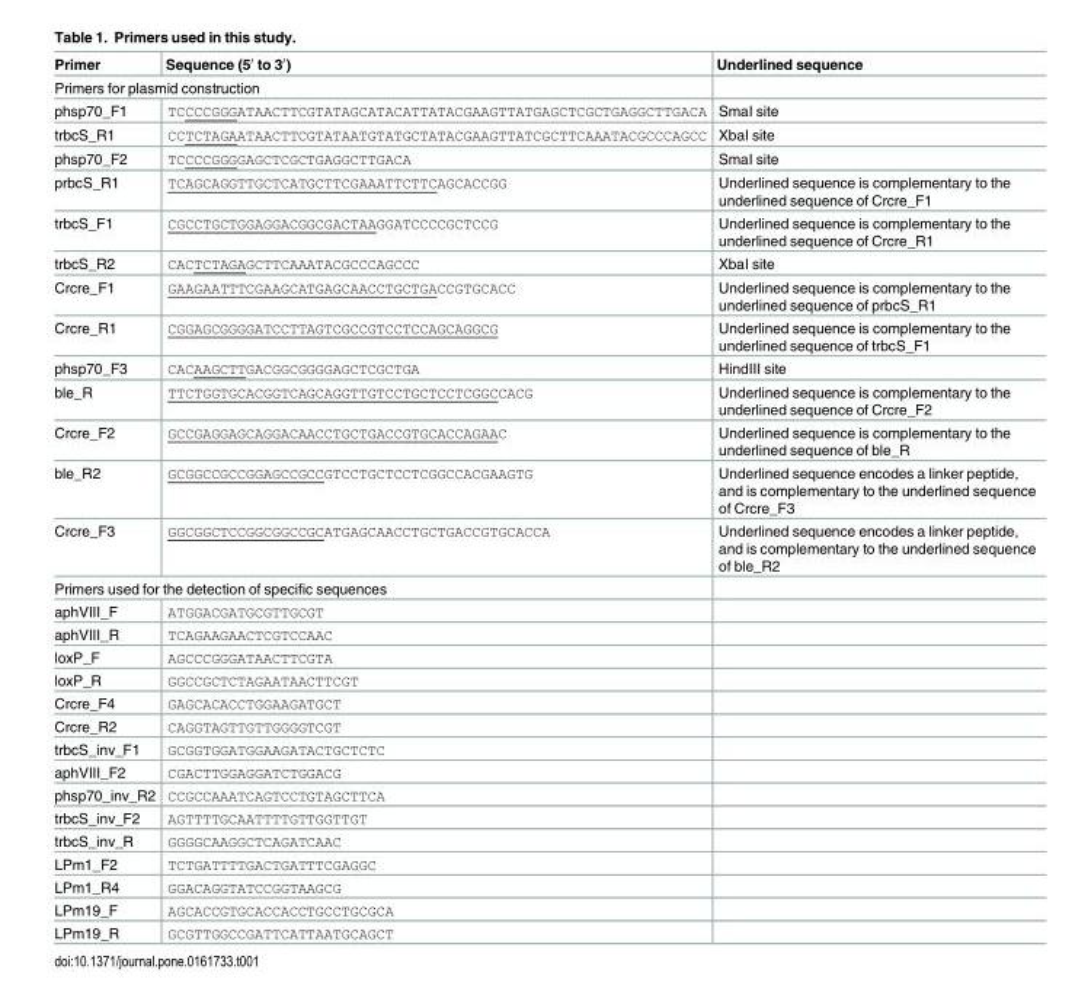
<table><thead><tr><td>Primer</td><td>Sequence (5′ to 3′)</td><td>Underlined sequence</td></tr></thead><tbody><tr><td colspan="3">Primers for plasmid construction</td></tr><tr><td>phsp70_F1</td><td>TCCCCGGGATAACTTCGTATAGCATACATTATACGAAGTTATGAGCTCGCTGAGGCTTGACA</td><td>SmaI site</td></tr><tr><td>trbcS_R1</td><td>CCTCTAGAATAACTTCGTATAATGTATGCTATACGAAGTTATCGCTTCAAATACGCCCAGCC</td><td>XbaI site</td></tr><tr><td>phsp70_F2</td><td>TCCCCGGGGAGCTCGCTGAGGCTTGACA</td><td>SmaI site</td></tr><tr><td>prbcS_R1</td><td>TCAGCAGGTTGCTCATGCTTCGAAATTCTTCAGCACCGG</td><td>Underlined sequence is complementary to the underlined sequence of Crcre_F1</td></tr><tr><td>trbcS_F1</td><td>CGCCTGCTGGAGGACGGCGACTAAGGATCCCCGCTCCG</td><td>Underlined sequence is complementary to the underlined sequence of Crcre_R1</td></tr><tr><td>trbcS_R2</td><td>CACTCTAGAGCTTCAAATACGCCCAGCCC</td><td>XbaI site</td></tr><tr><td>Crcre_F1</td><td>GAAGAATTTCGAAGCATGAGCAACCTGCTGACCGTGCACC</td><td>Underlined sequence is complementary to the underlined sequence of prbcS_R1</td></tr><tr><td>Crcre_R1</td><td>CGGAGCGGGGATCCTTAGTCGCCGTCCTCCAGCAGGCG</td><td>Underlined sequence is complementary to the underlined sequence of trbcS_F1</td></tr><tr><td>phsp70_F3</td><td>CACAAGCTTGACGGCGGGGAGCTCGCTGA</td><td>HindIII site</td></tr><tr><td>ble_R</td><td>TTCTGGTGCACGGTCAGCAGGTTGTCCTGCTCCTCGGCCACG</td><td>Underlined sequence is complementary to the underlined sequence of Crcre_F2</td></tr><tr><td>Crcre_F2</td><td>GCCGAGGAGCAGGACAACCTGCTGACCGTGCACCAGAAC</td><td>Underlined sequence is complementary to the underlined sequence of ble_R</td></tr><tr><td>ble_R2</td><td>GCGGCCGCCGGAGCCGCCGTCCTGCTCCTCGGCCACGAAGTG</td><td>Underlined sequence encodes a linker peptide, and is complementary to the underlined sequence of Crcre_F3</td></tr><tr><td>Crcre_F3</td><td>GGCGGCTCCGGCGGCCGCATGAGCAACCTGCTGACCGTGCACCA</td><td>Underlined sequence encodes a linker peptide, and is complementary to the underlined sequence of ble_R2</td></tr><tr><td colspan="3">Primers used for the detection of specific sequences</td></tr><tr><td>aphVIII_F</td><td>ATGGACGATGCGTTGCGT</td><td></td></tr><tr><td>aphVIII_R</td><td>TCAGAAGAACTCGTCCAAC</td><td></td></tr><tr><td>loxP_F</td><td>AGCCCGGGATAACTTCGTA</td><td></td></tr><tr><td>loxP_R</td><td>GGCCGCTCTAGAATAACTTCGT</td><td></td></tr><tr><td>Crcre_F4</td><td>GAGCACACCTGGAAGATGCT</td><td></td></tr><tr><td>Crcre_R2</td><td>CAGGTAGTTGTTGGGGTCGT</td><td></td></tr><tr><td>trbcS_inv_F1</td><td>GCGGTGGATGGAAGATACTGCTCTC</td><td></td></tr><tr><td>aphVIII_F2</td><td>CGACTTGGAGGATCTGGACG</td><td></td></tr><tr><td>phsp70_inv_R2</td><td>CCGCCAAATCAGTCCTGTAGCTTCA</td><td></td></tr><tr><td>trbcS_inv_F2</td><td>AGTTTTGCAATTTTGTTGGTTGT</td><td></td></tr><tr><td>trbcS_inv_R</td><td>GGGGCAAGGCTCAGATCAAC</td><td></td></tr><tr><td>LPm1_F2</td><td>TCTGATTTTGACTGATTTCGAGGC</td><td></td></tr><tr><td>LPm1_R4</td><td>GGACAGGTATCCGGTAAGCG</td><td></td></tr><tr><td>LPm19_F</td><td>AGCACCGTGCACCACCTGCCTGCGCA</td><td></td></tr><tr><td>LPm19_R</td><td>GCGTTGGCCGATTCATTAATGCAGCT</td><td></td></tr></tbody></table>